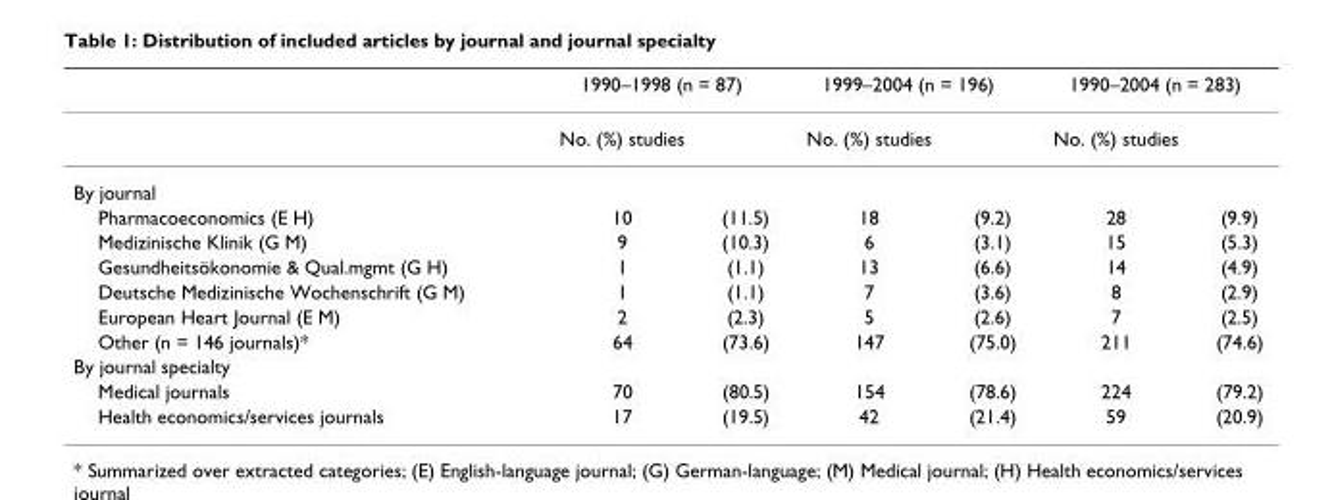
<table><thead><tr><td rowspan="2"></td><td colspan="2">1990–1998 (n = 87)</td><td colspan="2">1999–2004 (n = 196)</td><td colspan="2">1990–2004 (n = 283)</td></tr><tr><td>No. (%) studies</td><td></td><td>No. (%) studies</td><td></td><td>No. (%) studies</td><td></td></tr></thead><tbody><tr><td colspan="7">By journal</td></tr><tr><td>Pharmacoeconomics (E H)</td><td>10</td><td>(11.5)</td><td>18</td><td>(9.2)</td><td>28</td><td>(9.9)</td></tr><tr><td>Medizinische Klinik (G M)</td><td>9</td><td>(10.3)</td><td>6</td><td>(3.1)</td><td>15</td><td>(5.3)</td></tr><tr><td>Gesundheitsökonomie &amp; Qual.mgmt (G H)</td><td>1</td><td>(1.1)</td><td>13</td><td>(6.6)</td><td>14</td><td>(4.9)</td></tr><tr><td>Deutsche Medizinische Wochenschrift (G M)</td><td>1</td><td>(1.1)</td><td>7</td><td>(3.6)</td><td>8</td><td>(2.9)</td></tr><tr><td>European Heart Journal (E M)</td><td>2</td><td>(2.3)</td><td>5</td><td>(2.6)</td><td>7</td><td>(2.5)</td></tr><tr><td>Other (n = 146 journals)*</td><td>64</td><td>(73.6)</td><td>147</td><td>(75.0)</td><td>211</td><td>(74.6)</td></tr><tr><td colspan="7">By journal specialty</td></tr><tr><td>Medical journals</td><td>70</td><td>(80.5)</td><td>154</td><td>(78.6)</td><td>224</td><td>(79.2)</td></tr><tr><td>Health economics/services journals</td><td>17</td><td>(19.5)</td><td>42</td><td>(21.4)</td><td>59</td><td>(20.9)</td></tr></tbody></table>